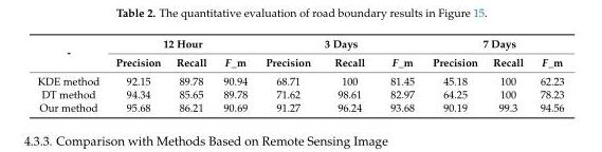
<table><thead><tr><td rowspan="2">-</td><td colspan="3">12 Hour</td><td colspan="3">3 Days</td><td colspan="3">7 Days</td></tr><tr><td>Precision</td><td>Recall</td><td>F_m</td><td>Precision</td><td>Recall</td><td>F_m</td><td>Precision</td><td>Recall</td><td>F_m</td></tr></thead><tbody><tr><td>KDE method</td><td>92.15</td><td>89.78</td><td>90.94</td><td>68.71</td><td>100</td><td>81.45</td><td>45.18</td><td>100</td><td>62.23</td></tr><tr><td>DT method</td><td>94.34</td><td>85.65</td><td>89.78</td><td>71.62</td><td>98.61</td><td>82.97</td><td>64.25</td><td>100</td><td>78.23</td></tr><tr><td>Our method</td><td>95.68</td><td>86.21</td><td>90.69</td><td>91.27</td><td>96.24</td><td>93.68</td><td>90.19</td><td>99.3</td><td>94.56</td></tr></tbody></table>